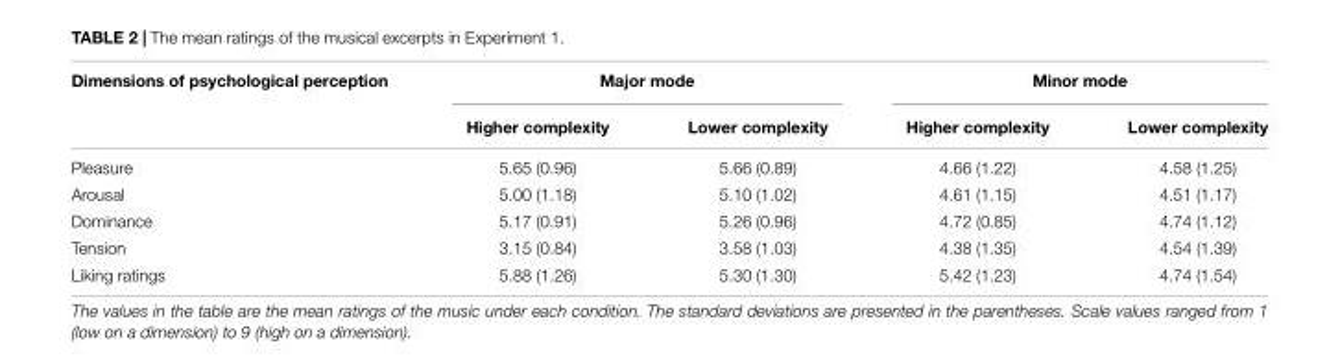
<table><thead><tr><td rowspan="2">Dimensions of psychological perception</td><td colspan="2">Major mode</td><td colspan="2">Minor mode</td></tr><tr><td>Higher complexity</td><td>Lower complexity</td><td>Higher complexity</td><td>Lower complexity</td></tr></thead><tbody><tr><td>Pleasure</td><td>5.65 (0.96)</td><td>5.66 (0.89)</td><td>4.66 (1.22)</td><td>4.58 (1.25)</td></tr><tr><td>Arousal</td><td>5.00 (1.18)</td><td>5.10 (1.02)</td><td>4.61 (1.15)</td><td>4.51 (1.17)</td></tr><tr><td>Dominance</td><td>5.17 (0.91)</td><td>5.26 (0.96)</td><td>4.72 (0.85)</td><td>4.74 (1.12)</td></tr><tr><td>Tension</td><td>3.15 (0.84)</td><td>3.58 (1.03)</td><td>4.38 (1.35)</td><td>4.54 (1.39)</td></tr><tr><td>Liking ratings</td><td>5.88 (1.26)</td><td>5.30 (1.30)</td><td>5.42 (1.23)</td><td>4.74 (1.54)</td></tr></tbody></table>